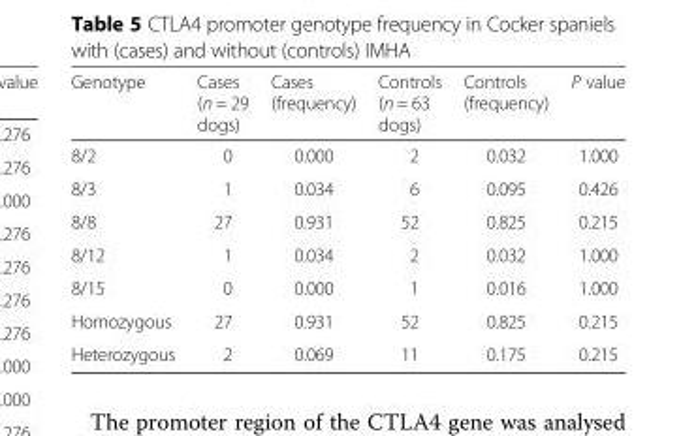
<table><thead><tr><td>Genotype</td><td>Cases (n = 29 dogs)</td><td>Cases (frequency)</td><td>Controls (n = 63 dogs)</td><td>Controls (frequency)</td><td>P value</td></tr></thead><tbody><tr><td>8/2</td><td>0</td><td>0.000</td><td>2</td><td>0.032</td><td>1.000</td></tr><tr><td>8/3</td><td>1</td><td>0.034</td><td>6</td><td>0.095</td><td>0.426</td></tr><tr><td>8/8</td><td>27</td><td>0.931</td><td>52</td><td>0.825</td><td>0.215</td></tr><tr><td>8/12</td><td>1</td><td>0.034</td><td>2</td><td>0.032</td><td>1.000</td></tr><tr><td>8/15</td><td>0</td><td>0.000</td><td>1</td><td>0.016</td><td>1.000</td></tr><tr><td>Homozygous</td><td>27</td><td>0.931</td><td>52</td><td>0.825</td><td>0.215</td></tr><tr><td>Heterozygous</td><td>2</td><td>0.069</td><td>11</td><td>0.175</td><td>0.215</td></tr></tbody></table>